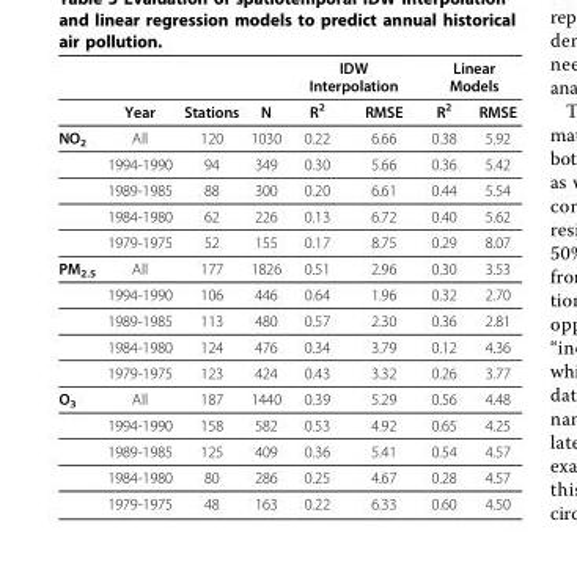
<table><thead><tr><td rowspan="2"></td><td rowspan="2">Year</td><td rowspan="2">Stations</td><td rowspan="2">N</td><td colspan="2">IDW Interpolation</td><td colspan="2">Linear Models</td></tr><tr><td>R<sup>2</sup></td><td>RMSE</td><td>R<sup>2</sup></td><td>RMSE</td></tr></thead><tbody><tr><td rowspan="5">NO<sub>2</sub></td><td>All</td><td>120</td><td>1030</td><td>0.22</td><td>6.66</td><td>0.38</td><td>5.92</td></tr><tr><td>1994-1990</td><td>94</td><td>349</td><td>0.30</td><td>5.66</td><td>0.36</td><td>5.42</td></tr><tr><td>1989-1985</td><td>88</td><td>300</td><td>0.20</td><td>6.61</td><td>0.44</td><td>5.54</td></tr><tr><td>1984-1980</td><td>62</td><td>226</td><td>0.13</td><td>6.72</td><td>0.40</td><td>5.62</td></tr><tr><td>1979-1975</td><td>52</td><td>155</td><td>0.17</td><td>8.75</td><td>0.29</td><td>8.07</td></tr><tr><td rowspan="5">PM<sub>2.5</sub></td><td>All</td><td>177</td><td>1826</td><td>0.51</td><td>2.96</td><td>0.30</td><td>3.53</td></tr><tr><td>1994-1990</td><td>106</td><td>446</td><td>0.64</td><td>1.96</td><td>0.32</td><td>2.70</td></tr><tr><td>1989-1985</td><td>113</td><td>480</td><td>0.57</td><td>2.30</td><td>0.36</td><td>2.81</td></tr><tr><td>1984-1980</td><td>124</td><td>476</td><td>0.34</td><td>3.79</td><td>0.12</td><td>4.36</td></tr><tr><td>1979-1975</td><td>123</td><td>424</td><td>0.43</td><td>3.32</td><td>0.26</td><td>3.77</td></tr><tr><td rowspan="5">O<sub>3</sub></td><td>All</td><td>187</td><td>1440</td><td>0.39</td><td>5.29</td><td>0.56</td><td>4.48</td></tr><tr><td>1994-1990</td><td>158</td><td>582</td><td>0.53</td><td>4.92</td><td>0.65</td><td>4.25</td></tr><tr><td>1989-1985</td><td>125</td><td>409</td><td>0.36</td><td>5.41</td><td>0.54</td><td>4.57</td></tr><tr><td>1984-1980</td><td>80</td><td>286</td><td>0.25</td><td>4.67</td><td>0.28</td><td>4.57</td></tr><tr><td>1979-1975</td><td>48</td><td>163</td><td>0.22</td><td>6.33</td><td>0.60</td><td>4.50</td></tr></tbody></table>